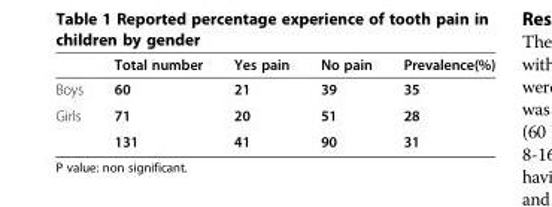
<table><thead><tr><td></td><td>Total number</td><td>Yes pain</td><td>No pain</td><td>Prevalence(%)</td></tr></thead><tbody><tr><td>Boys</td><td>60</td><td>21</td><td>39</td><td>35</td></tr><tr><td rowspan="2">Girls</td><td>71</td><td>20</td><td>51</td><td>28</td></tr><tr><td>131</td><td>41</td><td>90</td><td>31</td></tr></tbody></table>